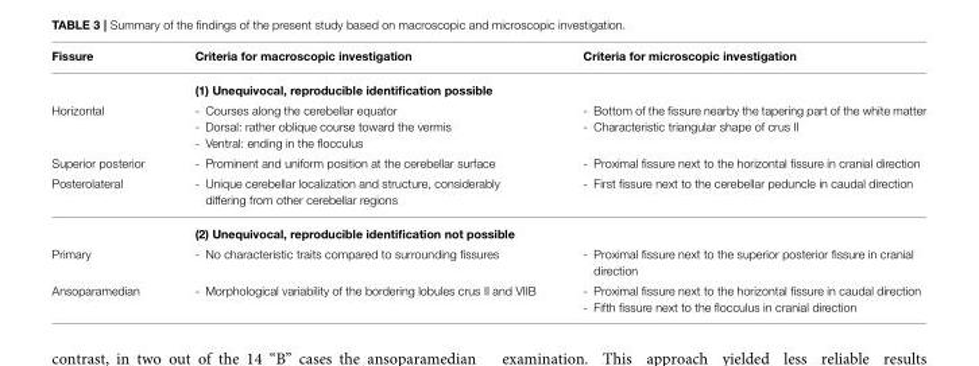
<table><thead><tr><td>Fissure</td><td>Criteria for macroscopic investigation</td><td>Criteria for microscopic investigation</td></tr></thead><tbody><tr><td></td><td colspan="2">(1) Unequivocal, reproducible identification possible</td></tr><tr><td>Horizontal</td><td>- Courses along the cerebellar equator - Dorsal: rather oblique course toward the vermis - Ventral: ending in the flocculus</td><td>- Bottom of the fissure nearby the tapering part of the white matter - Characteristic triangular shape of crus II</td></tr><tr><td>Superior posterior</td><td>- Prominent and uniform position at the cerebellar surface</td><td>- Proximal fissure next to the horizontal fissure in cranial direction</td></tr><tr><td rowspan="2">Posterolateral</td><td>- Unique cerebellar localization and structure, considerably differing from other cerebellar regions</td><td>- First fissure next to the cerebellar peduncle in caudal direction</td></tr><tr><td colspan="2">(2) Unequivocal, reproducible identification not possible</td></tr><tr><td>Primary</td><td>- No characteristic traits compared to surrounding fissures</td><td>- Proximal fissure next to the superior posterior fissure in cranial direction</td></tr><tr><td>Ansoparamedian</td><td>- Morphological variability of the bordering lobules crus II and VIIB</td><td>- Proximal fissure next to the horizontal fissure in caudal direction - Fifth fissure next to the flocculus in cranial direction</td></tr></tbody></table>